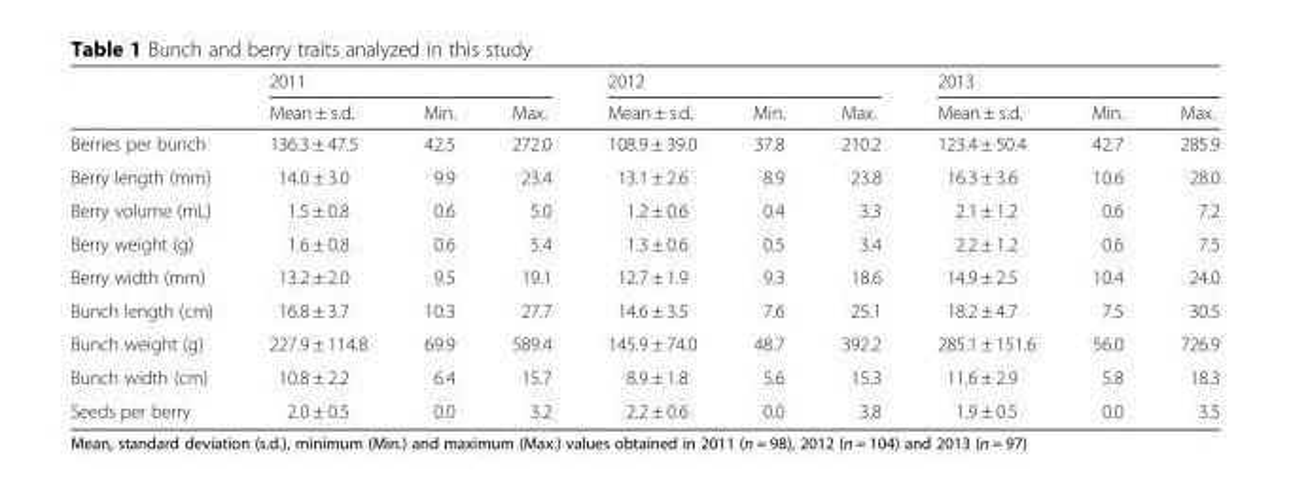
<table><thead><tr><td rowspan="2"></td><td colspan="3">2011</td><td colspan="3">2012</td><td colspan="3">2013</td></tr><tr><td>Mean ± s.d.</td><td>Min.</td><td>Max.</td><td>Mean ± s.d.</td><td>Min.</td><td>Max.</td><td>Mean ± s.d.</td><td>Min.</td><td>Max.</td></tr></thead><tbody><tr><td>Berries per bunch</td><td>136.3 ± 47.5</td><td>42.5</td><td>272.0</td><td>108.9 ± 39.0</td><td>37.8</td><td>210.2</td><td>123.4 ± 50.4</td><td>42.7</td><td>285.9</td></tr><tr><td>Berry length (mm)</td><td>14.0 ± 3.0</td><td>9.9</td><td>23.4</td><td>13.1 ± 2.6</td><td>8.9</td><td>23.8</td><td>16.3 ± 3.6</td><td>10.6</td><td>28.0</td></tr><tr><td>Berry volume (mL)</td><td>1.5 ± 0.8</td><td>0.6</td><td>5.0</td><td>1.2 ± 0.6</td><td>0.4</td><td>3.3</td><td>2.1 ± 1.2</td><td>0.6</td><td>7.2</td></tr><tr><td>Berry weight (g)</td><td>1.6 ± 0.8</td><td>0.6</td><td>5.4</td><td>1.3 ± 0.6</td><td>0.5</td><td>3.4</td><td>2.2 ± 1.2</td><td>0.6</td><td>7.5</td></tr><tr><td>Berry width (mm)</td><td>13.2 ± 2.0</td><td>9.5</td><td>19.1</td><td>12.7 ± 1.9</td><td>9.3</td><td>18.6</td><td>14.9 ± 2.5</td><td>10.4</td><td>24.0</td></tr><tr><td>Bunch length (cm)</td><td>16.8 ± 3.7</td><td>10.3</td><td>27.7</td><td>14.6 ± 3.5</td><td>7.6</td><td>25.1</td><td>18.2 ± 4.7</td><td>7.5</td><td>30.5</td></tr><tr><td>Bunch weight (g)</td><td>227.9 ± 114.8</td><td>69.9</td><td>589.4</td><td>145.9 ± 74.0</td><td>48.7</td><td>392.2</td><td>285.1 ± 151.6</td><td>56.0</td><td>726.9</td></tr><tr><td>Bunch width (cm)</td><td>10.8 ± 2.2</td><td>6.4</td><td>15.7</td><td>8.9 ± 1.8</td><td>5.6</td><td>15.3</td><td>11.6 ± 2.9</td><td>5.8</td><td>18.3</td></tr><tr><td>Seeds per berry</td><td>2.0 ± 0.5</td><td>0.0</td><td>3.2</td><td>2.2 ± 0.6</td><td>0.0</td><td>3.8</td><td>1.9 ± 0.5</td><td>0.0</td><td>3.5</td></tr></tbody></table>